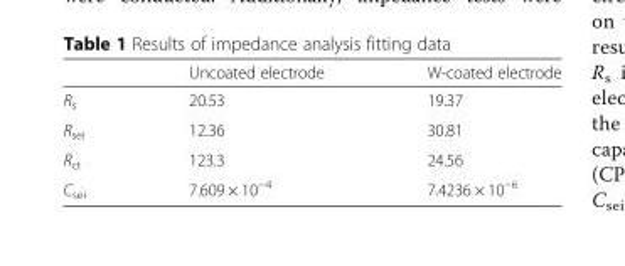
<table><thead><tr><td></td><td>Uncoated electrode</td><td>W-coated electrode</td></tr></thead><tbody><tr><td>R<sub>s</sub></td><td>20.53</td><td>19.37</td></tr><tr><td>R<sub>sei</sub></td><td>12.36</td><td>30.81</td></tr><tr><td>R<sub>ct</sub></td><td>123.3</td><td>24.56</td></tr><tr><td>C<sub>sei</sub></td><td>7.609 × 10<sup>−4</sup></td><td>7.4236 × 10<sup>−6</sup></td></tr></tbody></table>